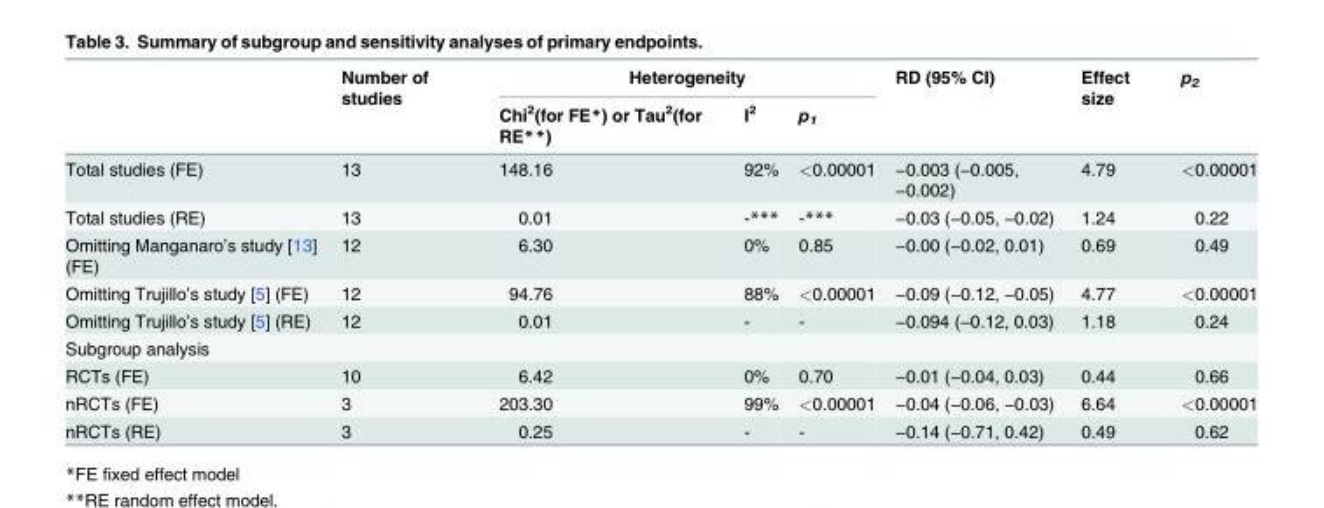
<table><thead><tr><td rowspan="2"></td><td rowspan="2">Number of studies</td><td colspan="3">Heterogeneity</td><td rowspan="2">RD (95% CI)</td><td rowspan="2">Effect size</td><td rowspan="2">p<sub>2</sub></td></tr><tr><td>Chi<sup>2</sup>(for FE*) or Tau<sup>2</sup>(for RE**)</td><td>I<sup>2</sup></td><td>p<sub>1</sub></td></tr></thead><tbody><tr><td>Total studies (FE)</td><td>13</td><td>148.16</td><td>92%</td><td>&lt;0.00001</td><td>−0.003 (−0.005, −0.002)</td><td>4.79</td><td>&lt;0.00001</td></tr><tr><td>Total studies (RE)</td><td>13</td><td>0.01</td><td>-***</td><td>-***</td><td>−0.03 (−0.05, −0.02)</td><td>1.24</td><td>0.22</td></tr><tr><td>Omitting Manganaro’s study [13] (FE)</td><td>12</td><td>6.30</td><td>0%</td><td>0.85</td><td>−0.00 (−0.02, 0.01)</td><td>0.69</td><td>0.49</td></tr><tr><td>Omitting Trujillo’s study [5] (FE)</td><td>12</td><td>94.76</td><td>88%</td><td>&lt;0.00001</td><td>−0.09 (−0.12, −0.05)</td><td>4.77</td><td>&lt;0.00001</td></tr><tr><td>Omitting Trujillo’s study [5] (RE)</td><td>12</td><td>0.01</td><td>-</td><td>-</td><td>−0.094 (−0.12, 0.03)</td><td>1.18</td><td>0.24</td></tr><tr><td colspan="8">Subgroup analysis</td></tr><tr><td>RCTs (FE)</td><td>10</td><td>6.42</td><td>0%</td><td>0.70</td><td>−0.01 (−0.04, 0.03)</td><td>0.44</td><td>0.66</td></tr><tr><td>nRCTs (FE)</td><td>3</td><td>203.30</td><td>99%</td><td>&lt;0.00001</td><td>−0.04 (−0.06, −0.03)</td><td>6.64</td><td>&lt;0.00001</td></tr><tr><td>nRCTs (RE)</td><td>3</td><td>0.25</td><td>-</td><td>-</td><td>−0.14 (−0.71, 0.42)</td><td>0.49</td><td>0.62</td></tr></tbody></table>